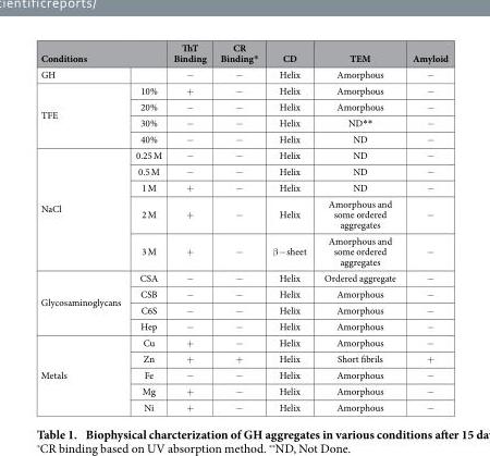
<table><thead><tr><td colspan="2">Conditions</td><td rowspan="2">ThT Binding −</td><td rowspan="2">CR Binding* −</td><td rowspan="2">CD Helix</td><td rowspan="2">TEM Amorphous</td><td rowspan="2">Amyloid −</td></tr><tr><td>GH</td><td></td></tr></thead><tbody><tr><td rowspan="4">TFE</td><td>10%</td><td>+</td><td>−</td><td>Helix</td><td>Amorphous</td><td>−</td></tr><tr><td>20%</td><td>−</td><td>−</td><td>Helix</td><td>Amorphous</td><td>−</td></tr><tr><td>30%</td><td>−</td><td>−</td><td>Helix</td><td>ND**</td><td>−</td></tr><tr><td>40%</td><td>−</td><td>−</td><td>Helix</td><td>ND</td><td>−</td></tr><tr><td rowspan="5">NaCl</td><td>0.25 M</td><td>−</td><td>−</td><td>Helix</td><td>ND</td><td>−</td></tr><tr><td>0.5 M</td><td>−</td><td>−</td><td>Helix</td><td>ND</td><td>−</td></tr><tr><td>1 M</td><td>+</td><td>−</td><td>Helix</td><td>ND</td><td>−</td></tr><tr><td>2 M</td><td>+</td><td>−</td><td>Helix</td><td>Amorphous and some ordered aggregates</td><td>−</td></tr><tr><td>3 M</td><td>+</td><td>−</td><td>β − sheet</td><td>Amorphous and some ordered aggregates</td><td>−</td></tr><tr><td rowspan="4">Glycosaminoglycans</td><td>CSA</td><td>−</td><td>−</td><td>Helix</td><td>Ordered aggregate</td><td>−</td></tr><tr><td>CSB</td><td>−</td><td>−</td><td>Helix</td><td>Amorphous</td><td>−</td></tr><tr><td>C6S</td><td>−</td><td>−</td><td>Helix</td><td>Amorphous</td><td>−</td></tr><tr><td>Hep</td><td>−</td><td>−</td><td>Helix</td><td>Amorphous</td><td>−</td></tr><tr><td rowspan="5">Metals</td><td>Cu</td><td>+</td><td>−</td><td>Helix</td><td>Amorphous</td><td>−</td></tr><tr><td>Zn</td><td>+</td><td>+</td><td>Helix</td><td>Short fibrils</td><td>+</td></tr><tr><td>Fe</td><td>−</td><td>−</td><td>Helix</td><td>Amorphous</td><td>−</td></tr><tr><td>Mg</td><td>+</td><td>−</td><td>Helix</td><td>Amorphous</td><td>−</td></tr><tr><td>Ni</td><td>+</td><td>−</td><td>Helix</td><td>Amorphous</td><td>−</td></tr></tbody></table>